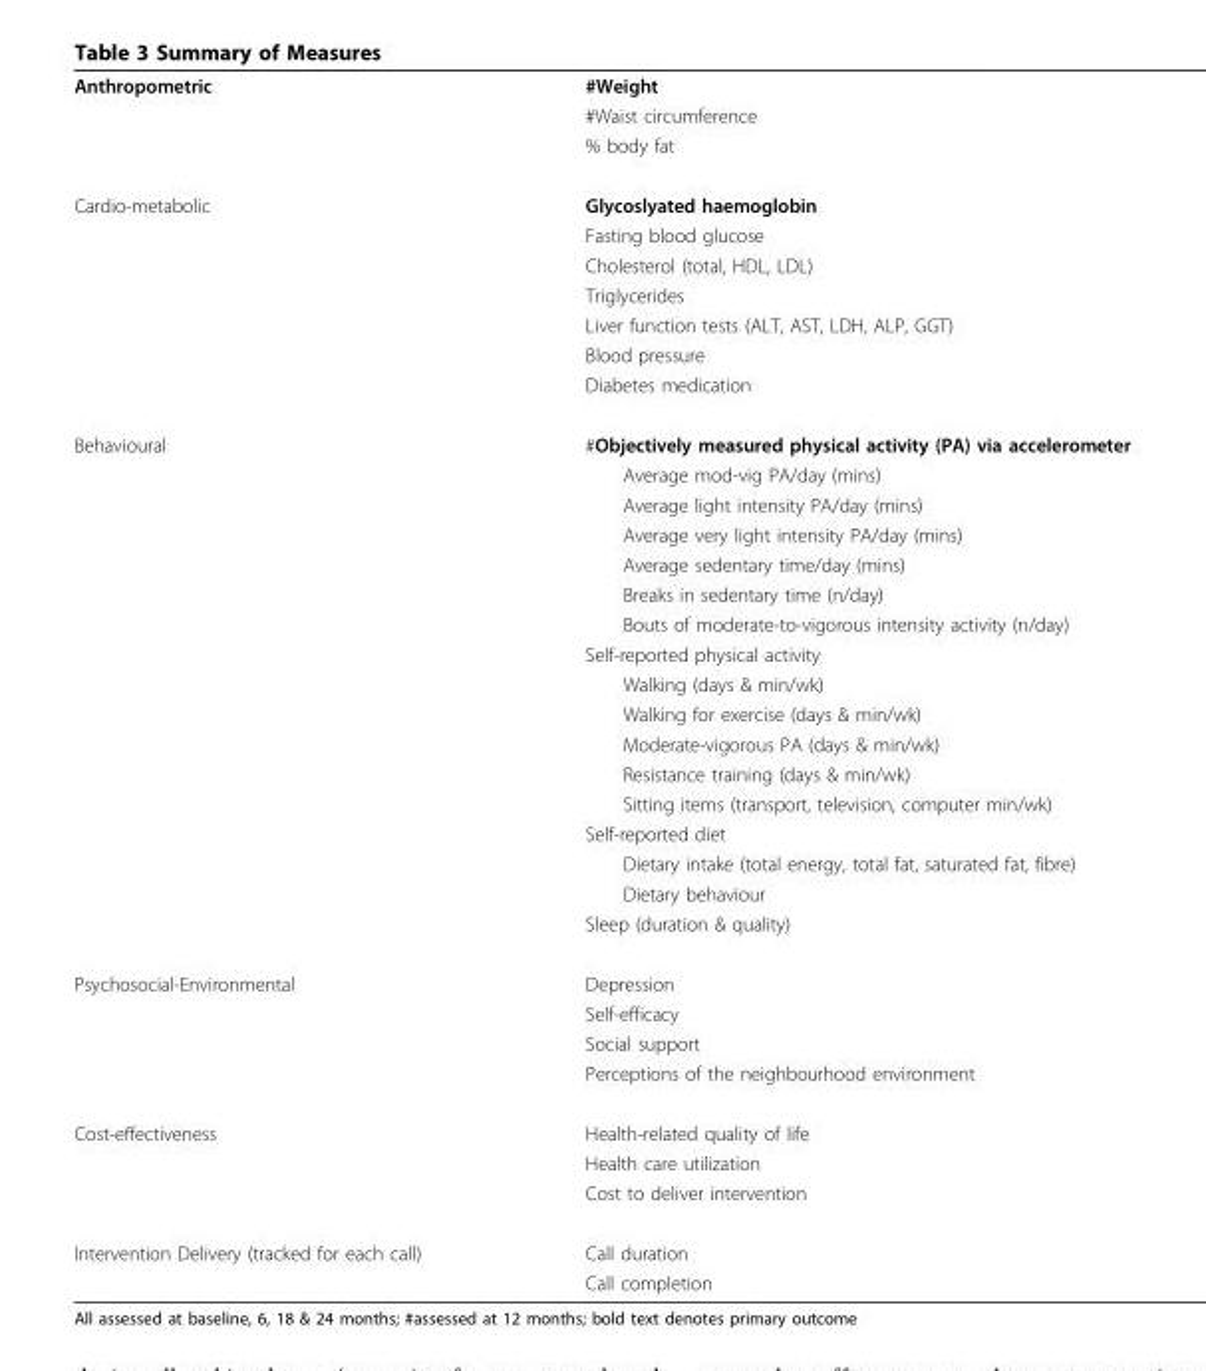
<table><tbody><tr><td rowspan="3">Anthropometric</td><td>#Weight</td></tr><tr><td>#Waist circumference</td></tr><tr><td>% body fat</td></tr><tr><td rowspan="7">Cardio-metabolic</td><td>Glycoslyated haemoglobin</td></tr><tr><td>Fasting blood glucose</td></tr><tr><td>Cholesterol (total, HDL, LDL)</td></tr><tr><td>Triglycerides</td></tr><tr><td>Liver function tests (ALT, AST, LDH, ALP, GGT)</td></tr><tr><td>Blood pressure</td></tr><tr><td>Diabetes medication</td></tr><tr><td rowspan="17">Behavioural</td><td>#Objectively measured physical activity (PA) via accelerometer</td></tr><tr><td>Average mod-vig PA/day (mins)</td></tr><tr><td>Average light intensity PA/day (mins)</td></tr><tr><td>Average very light intensity PA/day (mins)</td></tr><tr><td>Average sedentary time/day (mins)</td></tr><tr><td>Breaks in sedentary time (n/day)</td></tr><tr><td>Bouts of moderate-to-vigorous intensity activity (n/day)</td></tr><tr><td>Self-reported physical activity</td></tr><tr><td>Walking (days &amp; min/wk)</td></tr><tr><td>Walking for exercise (days &amp; min/wk)</td></tr><tr><td>Moderate-vigorous PA (days &amp; min/wk)</td></tr><tr><td>Resistance training (days &amp; min/wk)</td></tr><tr><td>Sitting items (transport, television, computer min/wk)</td></tr><tr><td>Self-reported diet</td></tr><tr><td>Dietary intake (total energy, total fat, saturated fat, fibre)</td></tr><tr><td>Dietary behaviour</td></tr><tr><td>Sleep (duration &amp; quality)</td></tr><tr><td rowspan="4">Psychosocial-Environmental</td><td>Depression</td></tr><tr><td>Self-efficacy</td></tr><tr><td>Social support</td></tr><tr><td>Perceptions of the neighbourhood environment</td></tr><tr><td rowspan="3">Cost-effectiveness</td><td>Health-related quality of life</td></tr><tr><td>Health care utilization</td></tr><tr><td>Cost to deliver intervention</td></tr><tr><td rowspan="2">Intervention Delivery (tracked for each call)</td><td>Call duration</td></tr><tr><td>Call completion</td></tr></tbody></table>